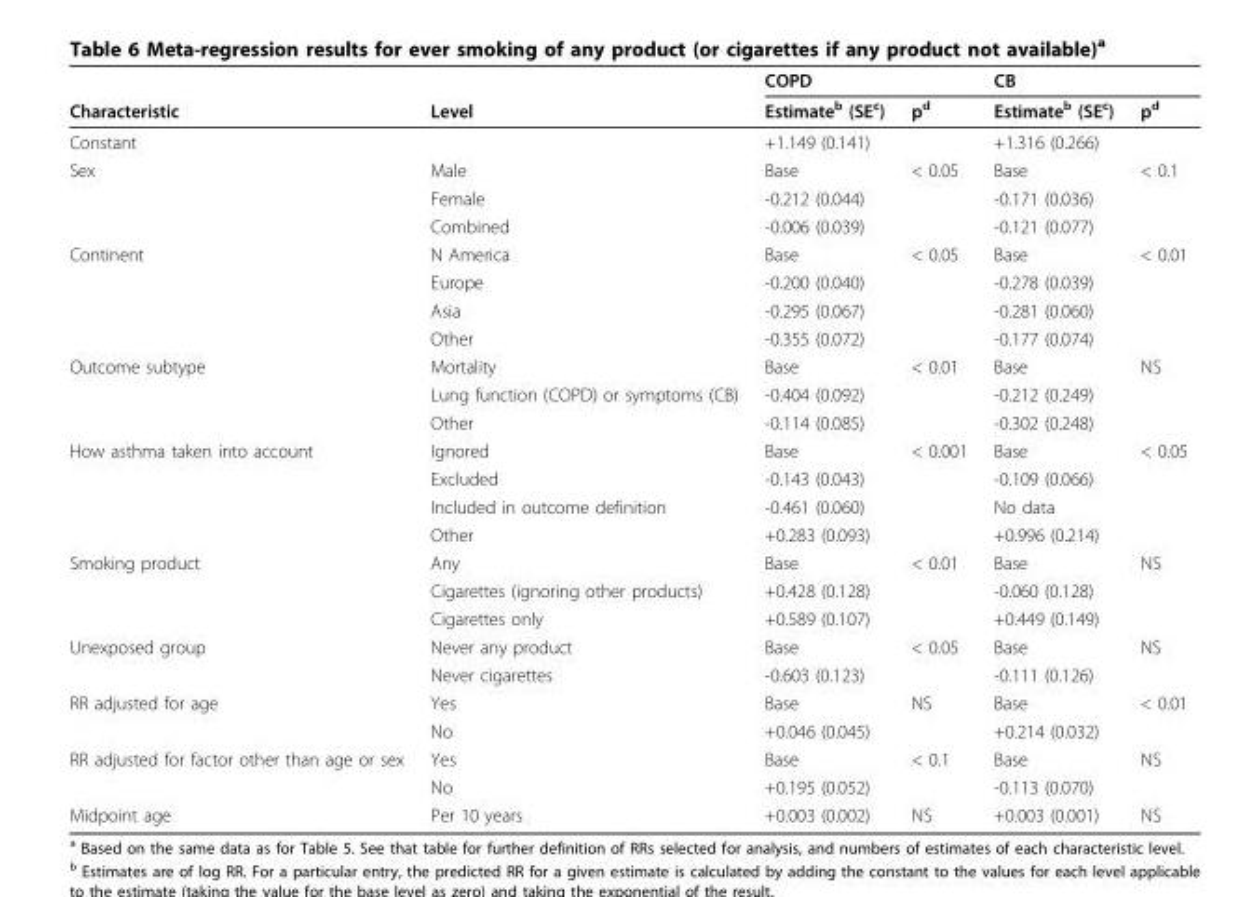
<table><thead><tr><td rowspan="2">Characteristic</td><td rowspan="2">Level</td><td rowspan="2">COPD Estimate<sup>b</sup> (SE<sup>c</sup>)</td><td rowspan="2">p<sup>d</sup></td><td rowspan="2">CB Estimate<sup>b</sup> (SE<sup>c</sup>)</td><td rowspan="2">p<sup>d</sup></td></tr><tr></tr></thead><tbody><tr><td>Constant</td><td></td><td>+1.149 (0.141)</td><td></td><td>+1.316 (0.266)</td><td></td></tr><tr><td rowspan="3">Sex</td><td>Male</td><td>Base</td><td>&lt; 0.05</td><td>Base</td><td>&lt; 0.1</td></tr><tr><td>Female</td><td>-0.212 (0.044)</td><td></td><td>-0.171 (0.036)</td><td></td></tr><tr><td>Combined</td><td>-0.006 (0.039)</td><td></td><td>-0.121 (0.077)</td><td></td></tr><tr><td rowspan="4">Continent</td><td>N America</td><td>Base</td><td>&lt; 0.05</td><td>Base</td><td>&lt; 0.01</td></tr><tr><td>Europe</td><td>-0.200 (0.040)</td><td></td><td>-0.278 (0.039)</td><td></td></tr><tr><td>Asia</td><td>-0.295 (0.067)</td><td></td><td>-0.281 (0.060)</td><td></td></tr><tr><td>Other</td><td>-0.355 (0.072)</td><td></td><td>-0.177 (0.074)</td><td></td></tr><tr><td rowspan="3">Outcome subtype</td><td>Mortality</td><td>Base</td><td>&lt; 0.01</td><td>Base</td><td>NS</td></tr><tr><td>Lung function (COPD) or symptoms (CB)</td><td>-0.404 (0.092)</td><td></td><td>-0.212 (0.249)</td><td></td></tr><tr><td>Other</td><td>-0.114 (0.085)</td><td></td><td>-0.302 (0.248)</td><td></td></tr><tr><td rowspan="4">How asthma taken into account</td><td>Ignored</td><td>Base</td><td>&lt; 0.001</td><td>Base</td><td>&lt; 0.05</td></tr><tr><td>Excluded</td><td>-0.143 (0.043)</td><td></td><td>-0.109 (0.066)</td><td></td></tr><tr><td>Included in outcome definition</td><td>-0.461 (0.060)</td><td></td><td>No data</td><td></td></tr><tr><td>Other</td><td>+0.283 (0.093)</td><td></td><td>+0.996 (0.214)</td><td></td></tr><tr><td rowspan="3">Smoking product</td><td>Any</td><td>Base</td><td>&lt; 0.01</td><td>Base</td><td>NS</td></tr><tr><td>Cigarettes (ignoring other products)</td><td>+0.428 (0.128)</td><td></td><td>-0.060 (0.128)</td><td></td></tr><tr><td>Cigarettes only</td><td>+0.589 (0.107)</td><td></td><td>+0.449 (0.149)</td><td></td></tr><tr><td rowspan="2">Unexposed group</td><td>Never any product</td><td>Base</td><td>&lt; 0.05</td><td>Base</td><td>NS</td></tr><tr><td>Never cigarettes</td><td>-0.603 (0.123)</td><td></td><td>-0.111 (0.126)</td><td></td></tr><tr><td rowspan="2">RR adjusted for age</td><td>Yes</td><td>Base</td><td>NS</td><td>Base</td><td>&lt; 0.01</td></tr><tr><td>No</td><td>+0.046 (0.045)</td><td></td><td>+0.214 (0.032)</td><td></td></tr><tr><td rowspan="2">RR adjusted for factor other than age or sex</td><td>Yes</td><td>Base</td><td>&lt; 0.1</td><td>Base</td><td>NS</td></tr><tr><td>No</td><td>+0.195 (0.052)</td><td></td><td>-0.113 (0.070)</td><td></td></tr><tr><td>Midpoint age</td><td>Per 10 years</td><td>+0.003 (0.002)</td><td>NS</td><td>+0.003 (0.001)</td><td>NS</td></tr></tbody></table>